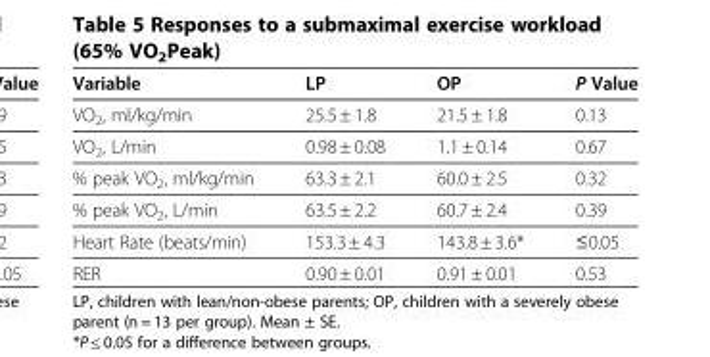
<table><thead><tr><td>Variable</td><td>LP</td><td>OP</td><td>P Value</td></tr></thead><tbody><tr><td>VO<sub>2</sub>, ml/kg/min</td><td>25.5 ± 1.8</td><td>21.5 ± 1.8</td><td>0.13</td></tr><tr><td>VO<sub>2</sub>, L/min</td><td>0.98 ± 0.08</td><td>1.1 ± 0.14</td><td>0.67</td></tr><tr><td>% peak VO<sub>2</sub>, ml/kg/min</td><td>63.3 ± 2.1</td><td>60.0 ± 2.5</td><td>0.32</td></tr><tr><td>% peak VO<sub>2</sub>, L/min</td><td>63.5 ± 2.2</td><td>60.7 ± 2.4</td><td>0.39</td></tr><tr><td>Heart Rate (beats/min)</td><td>153.3 ± 4.3</td><td>143.8 ± 3.6*</td><td>≤0.05</td></tr><tr><td>RER</td><td>0.90 ± 0.01</td><td>0.91 ± 0.01</td><td>0.53</td></tr></tbody></table>